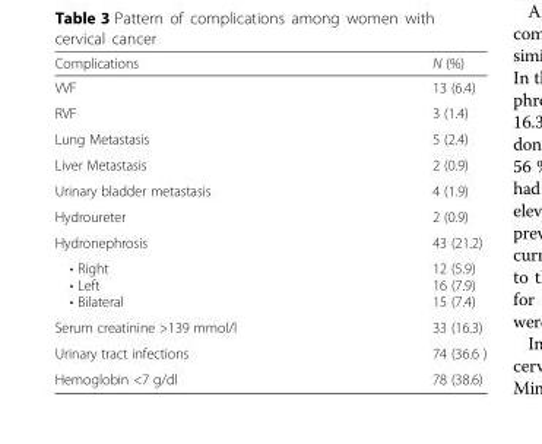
<table><thead><tr><td>Complications</td><td>N (%)</td></tr></thead><tbody><tr><td>VVF</td><td>13 (6.4)</td></tr><tr><td>RVF</td><td>3 (1.4)</td></tr><tr><td>Lung Metastasis</td><td>5 (2.4)</td></tr><tr><td>Liver Metastasis</td><td>2 (0.9)</td></tr><tr><td>Urinary bladder metastasis</td><td>4 (1.9)</td></tr><tr><td>Hydroureter</td><td>2 (0.9)</td></tr><tr><td>Hydronephrosis</td><td>43 (21.2)</td></tr><tr><td>• Right • Left • Bilateral</td><td>12 (5.9) 16 (7.9) 15 (7.4)</td></tr><tr><td>Serum creatinine &gt;139 mmol/l</td><td>33 (16.3)</td></tr><tr><td>Urinary tract infections</td><td>74 (36.6 )</td></tr><tr><td>Hemoglobin &lt;7 g/dl</td><td>78 (38.6)</td></tr></tbody></table>